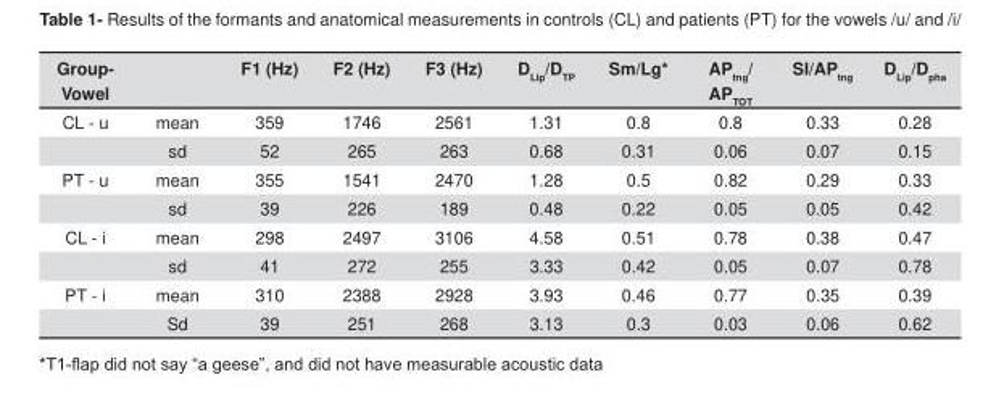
<table><thead><tr><td>Group- Vowel</td><td></td><td>F1 (Hz)</td><td>F2 (Hz)</td><td>F3 (Hz)</td><td>D<sub>Lip</sub>/D<sub>TP</sub></td><td>Sm/Lg*</td><td>AP<sub>tng</sub>/ AP<sub>TOT</sub></td><td>SI/AP<sub>tng</sub></td><td>D<sub>Lip</sub>/D<sub>pha</sub></td></tr></thead><tbody><tr><td rowspan="2">CL - u</td><td>mean</td><td>359</td><td>1746</td><td>2561</td><td>1.31</td><td>0.8</td><td>0.8</td><td>0.33</td><td>0.28</td></tr><tr><td>sd</td><td>52</td><td>265</td><td>263</td><td>0.68</td><td>0.31</td><td>0.06</td><td>0.07</td><td>0.15</td></tr><tr><td rowspan="2">PT - u</td><td>mean</td><td>355</td><td>1541</td><td>2470</td><td>1.28</td><td>0.5</td><td>0.82</td><td>0.29</td><td>0.33</td></tr><tr><td>sd</td><td>39</td><td>226</td><td>189</td><td>0.48</td><td>0.22</td><td>0.05</td><td>0.05</td><td>0.42</td></tr><tr><td rowspan="2">CL - i</td><td>mean</td><td>298</td><td>2497</td><td>3106</td><td>4.58</td><td>0.51</td><td>0.78</td><td>0.38</td><td>0.47</td></tr><tr><td>sd</td><td>41</td><td>272</td><td>255</td><td>3.33</td><td>0.42</td><td>0.05</td><td>0.07</td><td>0.78</td></tr><tr><td rowspan="2">PT - i</td><td>mean</td><td>310</td><td>2388</td><td>2928</td><td>3.93</td><td>0.46</td><td>0.77</td><td>0.35</td><td>0.39</td></tr><tr><td>Sd</td><td>39</td><td>251</td><td>268</td><td>3.13</td><td>0.3</td><td>0.03</td><td>0.06</td><td>0.62</td></tr></tbody></table>